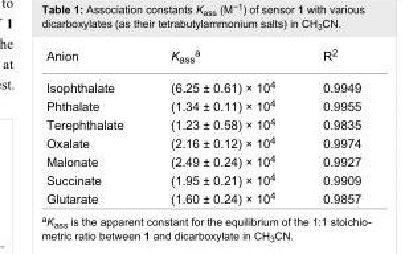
<table><tbody><tr><td>Anion</td><td>K<sub>ass</sub><sup>a</sup></td><td>R<sup>2</sup></td></tr><tr><td>Isophthalate</td><td>(6.25 ± 0.61) × 10<sup>4</sup></td><td>0.9949</td></tr><tr><td>Phthalate</td><td>(1.34 ± 0.11) × 10<sup>4</sup></td><td>0.9955</td></tr><tr><td>Terephthalate</td><td>(1.23 ± 0.58) × 10<sup>4</sup></td><td>0.9835</td></tr><tr><td>Oxalate</td><td>(2.16 ± 0.12) × 10<sup>4</sup></td><td>0.9974</td></tr><tr><td>Malonate</td><td>(2.49 ± 0.24) × 10<sup>4</sup></td><td>0.9927</td></tr><tr><td>Succinate</td><td>(1.95 ± 0.21) × 10<sup>4</sup></td><td>0.9909</td></tr><tr><td>Glutarate</td><td>(1.60 ± 0.24) × 10<sup>4</sup></td><td>0.9857</td></tr></tbody></table>